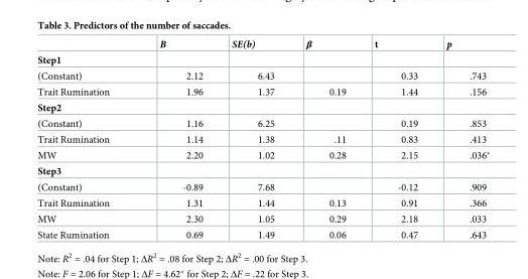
<table><thead><tr><td></td><td>B</td><td>SE(b)</td><td>β</td><td>t</td><td>p</td></tr></thead><tbody><tr><td colspan="6">Step1</td></tr><tr><td>(Constant)</td><td>2.12</td><td>6.43</td><td></td><td>0.33</td><td>.743</td></tr><tr><td>Trait Rumination</td><td>1.96</td><td>1.37</td><td>0.19</td><td>1.44</td><td>.156</td></tr><tr><td colspan="6">Step2</td></tr><tr><td>(Constant)</td><td>1.16</td><td>6.25</td><td></td><td>0.19</td><td>.853</td></tr><tr><td>Trait Rumination</td><td>1.14</td><td>1.38</td><td>.11</td><td>0.83</td><td>.413</td></tr><tr><td>MW</td><td>2.20</td><td>1.02</td><td>0.28</td><td>2.15</td><td>.036*</td></tr><tr><td colspan="6">Step3</td></tr><tr><td>(Constant)</td><td>-0.89</td><td>7.68</td><td></td><td>-0.12</td><td>.909</td></tr><tr><td>Trait Rumination</td><td>1.31</td><td>1.44</td><td>0.13</td><td>0.91</td><td>.366</td></tr><tr><td>MW</td><td>2.30</td><td>1.05</td><td>0.29</td><td>2.18</td><td>.033</td></tr><tr><td>State Rumination</td><td>0.69</td><td>1.49</td><td>0.06</td><td>0.47</td><td>.643</td></tr></tbody></table>